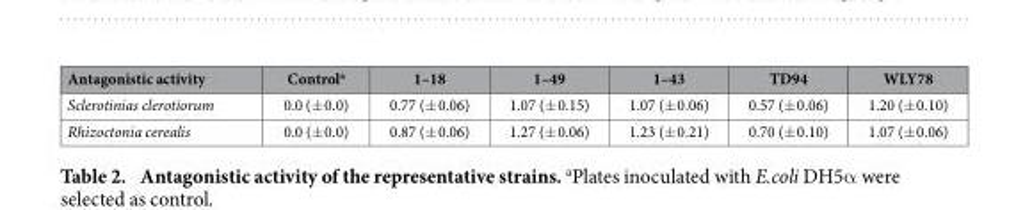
<table><thead><tr><td>Antagonistic activity</td><td>Control<sup>a</sup></td><td>1–18</td><td>1–49</td><td>1–43</td><td>TD94</td><td>WLY78</td></tr></thead><tbody><tr><td>Sclerotinias clerotiorum</td><td>0.0 (± 0.0)</td><td>0.77 (± 0.06)</td><td>1.07 (± 0.15)</td><td>1.07 (± 0.06)</td><td>0.57 (± 0.06)</td><td>1.20 (± 0.10)</td></tr><tr><td>Rhizoctonia cerealis</td><td>0.0 (± 0.0)</td><td>0.87 (± 0.06)</td><td>1.27 (± 0.06)</td><td>1.23 (± 0.21)</td><td>0.70 (± 0.10)</td><td>1.07 (± 0.06)</td></tr></tbody></table>